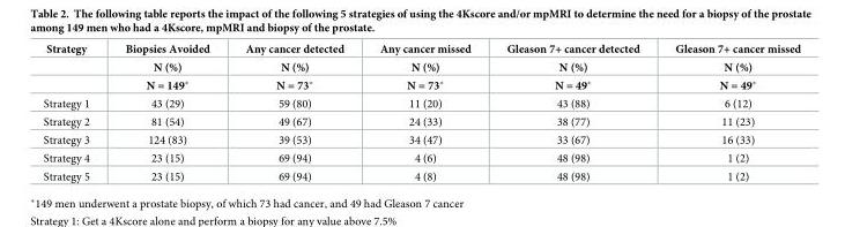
<table><thead><tr><td rowspan="3">Strategy</td><td rowspan="3">Biopsies Avoided N (%) N = 149*</td><td rowspan="3">Any cancer detected N (%) N = 73*</td><td rowspan="3">Any cancer missed N (%) N = 73*</td><td rowspan="3">Gleason 7+ cancer detected N (%) N = 49*</td><td rowspan="3">Gleason 7+ cancer missed N (%) N = 49*</td></tr><tr></tr><tr></tr></thead><tbody><tr><td>Strategy 1</td><td>43 (29)</td><td>59 (80)</td><td>11 (20)</td><td>43 (88)</td><td>6 (12)</td></tr><tr><td>Strategy 2</td><td>81 (54)</td><td>49 (67)</td><td>24 (33)</td><td>38 (77)</td><td>11 (23)</td></tr><tr><td>Strategy 3</td><td>124 (83)</td><td>39 (53)</td><td>34 (47)</td><td>33 (67)</td><td>16 (33)</td></tr><tr><td>Strategy 4</td><td>23 (15)</td><td>69 (94)</td><td>4 (6)</td><td>48 (98)</td><td>1 (2)</td></tr><tr><td>Strategy 5</td><td>23 (15)</td><td>69 (94)</td><td>4 (8)</td><td>48 (98)</td><td>1 (2)</td></tr></tbody></table>